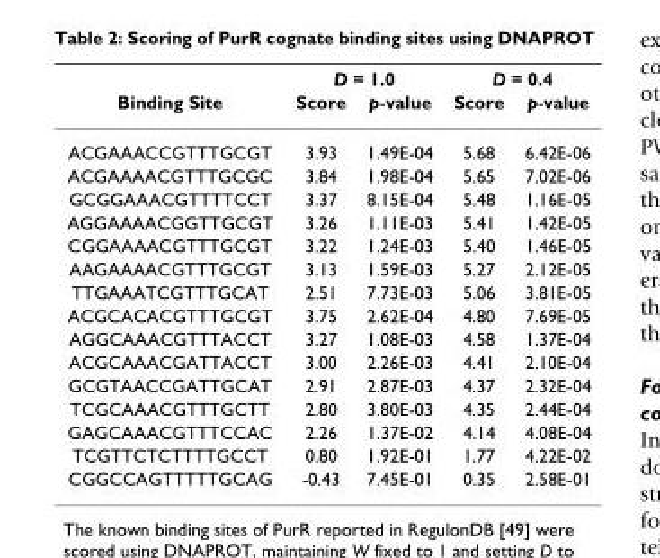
<table><thead><tr><td rowspan="2">Binding Site</td><td colspan="2">D = 1.0</td><td colspan="2">D = 0.4</td></tr><tr><td>Score</td><td>p-value</td><td>Score</td><td>p-value</td></tr></thead><tbody><tr><td>ACGAAACCGTTTGCGT</td><td>3.93</td><td>1.49E-04</td><td>5.68</td><td>6.42E-06</td></tr><tr><td>ACGAAAACGTTTGCGC</td><td>3.84</td><td>1.98E-04</td><td>5.65</td><td>7.02E-06</td></tr><tr><td>GCGGAAACGTTTTCCT</td><td>3.37</td><td>8.15E-04</td><td>5.48</td><td>1.16E-05</td></tr><tr><td>AGGAAAACGGTTGCGT</td><td>3.26</td><td>1.11E-03</td><td>5.41</td><td>1.42E-05</td></tr><tr><td>CGGAAAACGTTTGCGT</td><td>3.22</td><td>1.24E-03</td><td>5.40</td><td>1.46E-05</td></tr><tr><td>AAGAAAACGTTTGCGT</td><td>3.13</td><td>1.59E-03</td><td>5.27</td><td>2.12E-05</td></tr><tr><td>TTGAAATCGTTTGCAT</td><td>2.51</td><td>7.73E-03</td><td>5.06</td><td>3.81E-05</td></tr><tr><td>ACGCACACGTTTGCGT</td><td>3.75</td><td>2.62E-04</td><td>4.80</td><td>7.69E-05</td></tr><tr><td>AGGCAAACGTTTACCT</td><td>3.27</td><td>1.08E-03</td><td>4.58</td><td>1.37E-04</td></tr><tr><td>ACGCAAACGATTACCT</td><td>3.00</td><td>2.26E-03</td><td>4.41</td><td>2.10E-04</td></tr><tr><td>GCGTAACCGATTGCAT</td><td>2.91</td><td>2.87E-03</td><td>4.37</td><td>2.32E-04</td></tr><tr><td>TCGCAAACGTTTGCTT</td><td>2.80</td><td>3.80E-03</td><td>4.35</td><td>2.44E-04</td></tr><tr><td>GAGCAAACGTTTCCAC</td><td>2.26</td><td>1.37E-02</td><td>4.14</td><td>4.08E-04</td></tr><tr><td>TCGTTCTCTTTTGCCT</td><td>0.80</td><td>1.92E-01</td><td>1.77</td><td>4.22E-02</td></tr><tr><td>CGGCCAGTTTTTGCAG</td><td>-0.43</td><td>7.45E-01</td><td>0.35</td><td>2.58E-01</td></tr></tbody></table>